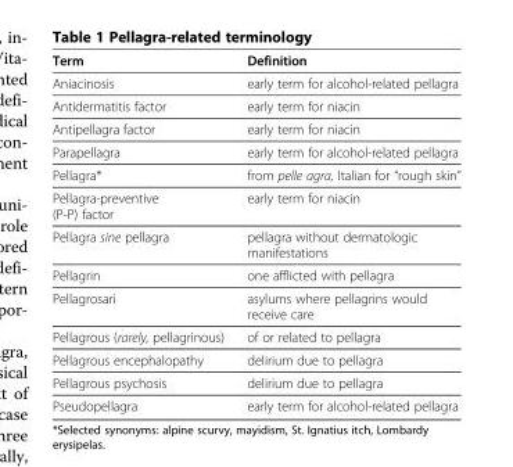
<table><thead><tr><td>Term</td><td>Definition</td></tr></thead><tbody><tr><td>Aniacinosis</td><td>early term for alcohol-related pellagra</td></tr><tr><td>Antidermatitis factor</td><td>early term for niacin</td></tr><tr><td>Antipellagra factor</td><td>early term for niacin</td></tr><tr><td>Parapellagra</td><td>early term for alcohol-related pellagra</td></tr><tr><td>Pellagra*</td><td>from pelle agra, Italian for “rough skin”</td></tr><tr><td>Pellagra-preventive (P-P) factor</td><td>early term for niacin</td></tr><tr><td>Pellagra sine pellagra</td><td>pellagra without dermatologic manifestations</td></tr><tr><td>Pellagrin</td><td>one afflicted with pellagra</td></tr><tr><td>Pellagrosari</td><td>asylums where pellagrins would receive care</td></tr><tr><td>Pellagrous (rarely, pellagrinous)</td><td>of or related to pellagra</td></tr><tr><td>Pellagrous encephalopathy</td><td>delirium due to pellagra</td></tr><tr><td>Pellagrous psychosis</td><td>delirium due to pellagra</td></tr><tr><td>Pseudopellagra</td><td>early term for alcohol-related pellagra</td></tr></tbody></table>